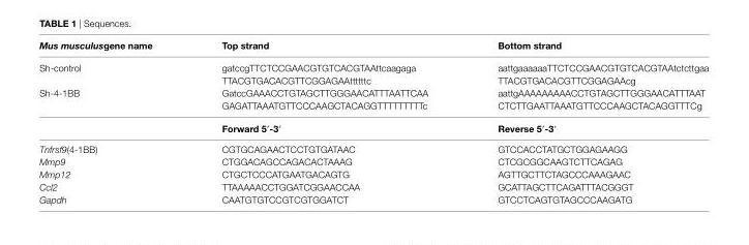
<table><thead><tr><td>Mus musculusgene name</td><td>Top strand</td><td>Bottom strand</td></tr></thead><tbody><tr><td>Sh-control</td><td>gatccgTTCTCCGAACGTGTCACGTAAttcaagaga TTACGTGACACGTTCGGAGAAttttttc</td><td>aattgaaaaaaTTCTCCGAACGTGTCACGTAAtctcttgaa TTACGTGACACGTTCGGAGAAcg</td></tr><tr><td rowspan="2">Sh-4-1BB</td><td>GatccGAAACCTGTAGCTTGGGAACATTTAATTCAA GAGATTAAATGTTCCCAAGCTACAGGTTTTTTTTTc</td><td>aattgAAAAAAAAACCTGTAGCTTGGGAACATTTAAT CTCTTGAATTAAATGTTCCCAAGCTACAGGTTTCg</td></tr><tr><td>Forward 5′-3′</td><td>reverse 5′-3′</td></tr><tr><td>Tnfrsf9(4-1BB)</td><td>CGTGCAGAACTCCTGTGATAAC</td><td>GTCCACCTATGCTGGAGAAGG</td></tr><tr><td>Mmp9</td><td>CTGGACAGCCAGACACTAAAG</td><td>CTCGCGGCAAGTCTTCAGAG</td></tr><tr><td>Mmp12</td><td>CTGCTCCCATGAATGACAGTG</td><td>AGTTGCTTCTAGCCCAAAGAAC</td></tr><tr><td>Ccl2</td><td>TTAAAAACCTGGATCGGAACCAA</td><td>GCATTAGCTTCAGATTTACGGGT</td></tr><tr><td>Gapdh</td><td>CAATGTGTCCGTCGTGGATCT</td><td>GTCCTCAGTGTAGCCCAAGATG</td></tr></tbody></table>